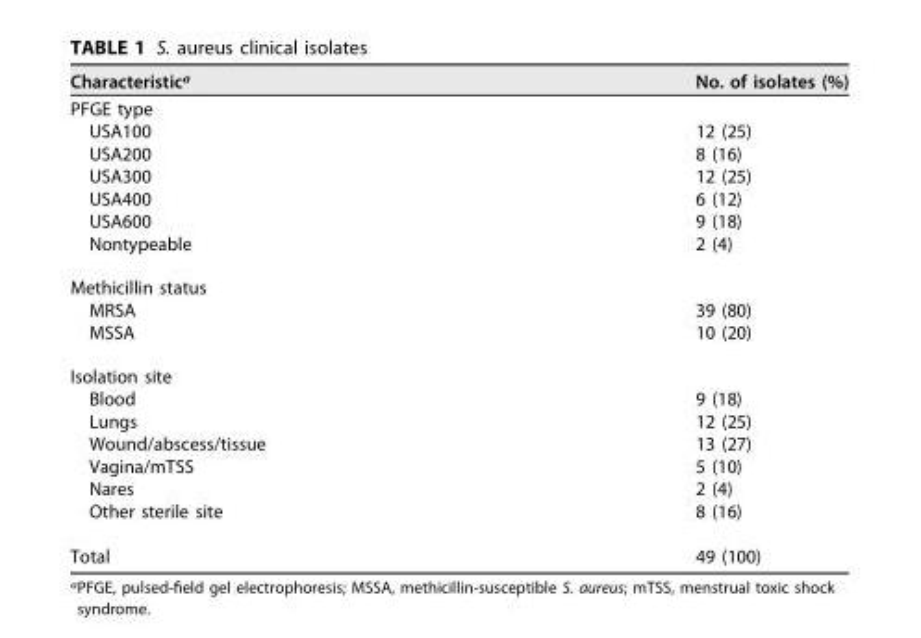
<table><thead><tr><td>Characteristic<sup>a</sup></td><td>No. of isolates (%)</td></tr></thead><tbody><tr><td colspan="2">PFGE type</td></tr><tr><td>USA100</td><td>12 (25)</td></tr><tr><td>USA200</td><td>8 (16)</td></tr><tr><td>USA300</td><td>12 (25)</td></tr><tr><td>USA400</td><td>6 (12)</td></tr><tr><td>USA600</td><td>9 (18)</td></tr><tr><td>Nontypeable</td><td>2 (4)</td></tr><tr><td colspan="2">Methicillin status</td></tr><tr><td>MRSA</td><td>39 (80)</td></tr><tr><td>MSSA</td><td>10 (20)</td></tr><tr><td colspan="2">Isolation site</td></tr><tr><td>Blood</td><td>9 (18)</td></tr><tr><td>Lungs</td><td>12 (25)</td></tr><tr><td>Wound/abscess/tissue</td><td>13 (27)</td></tr><tr><td>Vagina/mTSS</td><td>5 (10)</td></tr><tr><td>Nares</td><td>2 (4)</td></tr><tr><td>Other sterile site</td><td>8 (16)</td></tr><tr><td>Total</td><td>49 (100)</td></tr></tbody></table>